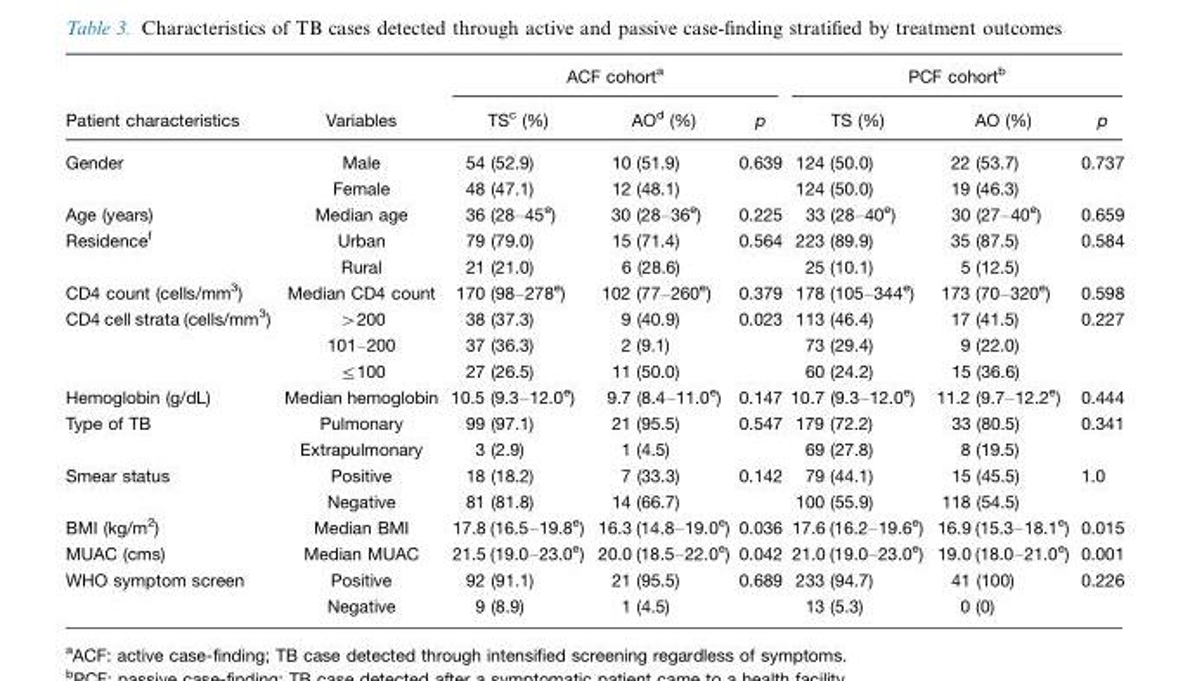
<table><thead><tr><td rowspan="2">Patient characteristics</td><td rowspan="2">Variables</td><td colspan="3">ACF cohort<sup>a</sup></td><td colspan="3">PCF cohort<sup>b</sup></td></tr><tr><td>TS<sup>c</sup> (%)</td><td>AO<sup>d</sup> (%)</td><td>p</td><td>TS (%)</td><td>AO (%)</td><td>p</td></tr></thead><tbody><tr><td rowspan="2">Gender</td><td>Male</td><td>54 (52.9)</td><td>10 (51.9)</td><td>0.639</td><td>124 (50.0)</td><td>22 (53.7)</td><td>0.737</td></tr><tr><td>Female</td><td>48 (47.1)</td><td>12 (48.1)</td><td></td><td>124 (50.0)</td><td>19 (46.3)</td><td></td></tr><tr><td>Age (years)</td><td>Median age</td><td>36 (28–45<sup>e</sup>)</td><td>30 (28–36<sup>e</sup>)</td><td>0.225</td><td>33 (28–40<sup>e</sup>)</td><td>30 (27–40<sup>e</sup>)</td><td>0.659</td></tr><tr><td rowspan="2">Residence<sup>f</sup></td><td>Urban</td><td>79 (79.0)</td><td>15 (71.4)</td><td>0.564</td><td>223 (89.9)</td><td>35 (87.5)</td><td>0.584</td></tr><tr><td>Rural</td><td>21 (21.0)</td><td>6 (28.6)</td><td></td><td>25 (10.1)</td><td>5 (12.5)</td><td></td></tr><tr><td>CD4 count (cells/mm<sup>3</sup>)</td><td>Median CD4 count</td><td>170 (98–278<sup>e</sup>)</td><td>102 (77–260<sup>e</sup>)</td><td>0.379</td><td>178 (105–344<sup>e</sup>)</td><td>173 (70–320<sup>e</sup>)</td><td>0.598</td></tr><tr><td rowspan="3">CD4 cell strata (cells/mm<sup>3</sup>)</td><td>&gt;200</td><td>38 (37.3)</td><td>9 (40.9)</td><td>0.023</td><td>113 (46.4)</td><td>17 (41.5)</td><td>0.227</td></tr><tr><td>101–200</td><td>37 (36.3)</td><td>2 (9.1)</td><td></td><td>73 (29.4)</td><td>9 (22.0)</td><td></td></tr><tr><td>≤100</td><td>27 (26.5)</td><td>11 (50.0)</td><td></td><td>60 (24.2)</td><td>15 (36.6)</td><td></td></tr><tr><td>Hemoglobin (g/dL)</td><td>Median hemoglobin</td><td>10.5 (9.3–12.0<sup>e</sup>)</td><td>9.7 (8.4–11.0<sup>e</sup>)</td><td>0.147</td><td>10.7 (9.3–12.0<sup>e</sup>)</td><td>11.2 (9.7–12.2<sup>e</sup>)</td><td>0.444</td></tr><tr><td rowspan="2">Type of TB</td><td>Pulmonary</td><td>99 (97.1)</td><td>21 (95.5)</td><td>0.547</td><td>179 (72.2)</td><td>33 (80.5)</td><td>0.341</td></tr><tr><td>Extrapulmonary</td><td>3 (2.9)</td><td>1 (4.5)</td><td></td><td>69 (27.8)</td><td>8 (19.5)</td><td></td></tr><tr><td rowspan="2">Smear status</td><td>Positive</td><td>18 (18.2)</td><td>7 (33.3)</td><td>0.142</td><td>79 (44.1)</td><td>15 (45.5)</td><td>1.0</td></tr><tr><td>Negative</td><td>81 (81.8)</td><td>14 (66.7)</td><td></td><td>100 (55.9)</td><td>118 (54.5)</td><td></td></tr><tr><td>BMI (kg/m<sup>2</sup>)</td><td>Median BMI</td><td>17.8 (16.5–19.8<sup>e</sup>)</td><td>16.3 (14.8–19.0<sup>e</sup>)</td><td>0.036</td><td>17.6 (16.2–19.6<sup>e</sup>)</td><td>16.9 (15.3–18.1<sup>e</sup>)</td><td>0.015</td></tr><tr><td>MUAC (cms)</td><td>Median MUAC</td><td>21.5 (19.0–23.0<sup>e</sup>)</td><td>20.0 (18.5–22.0<sup>e</sup>)</td><td>0.042</td><td>21.0 (19.0–23.0<sup>e</sup>)</td><td>19.0 (18.0–21.0<sup>e</sup>)</td><td>0.001</td></tr><tr><td rowspan="2">WHO symptom screen</td><td>Positive</td><td>92 (91.1)</td><td>21 (95.5)</td><td>0.689</td><td>233 (94.7)</td><td>41 (100)</td><td>0.226</td></tr><tr><td>Negative</td><td>9 (8.9)</td><td>1 (4.5)</td><td></td><td>13 (5.3)</td><td>0 (0)</td><td></td></tr></tbody></table>